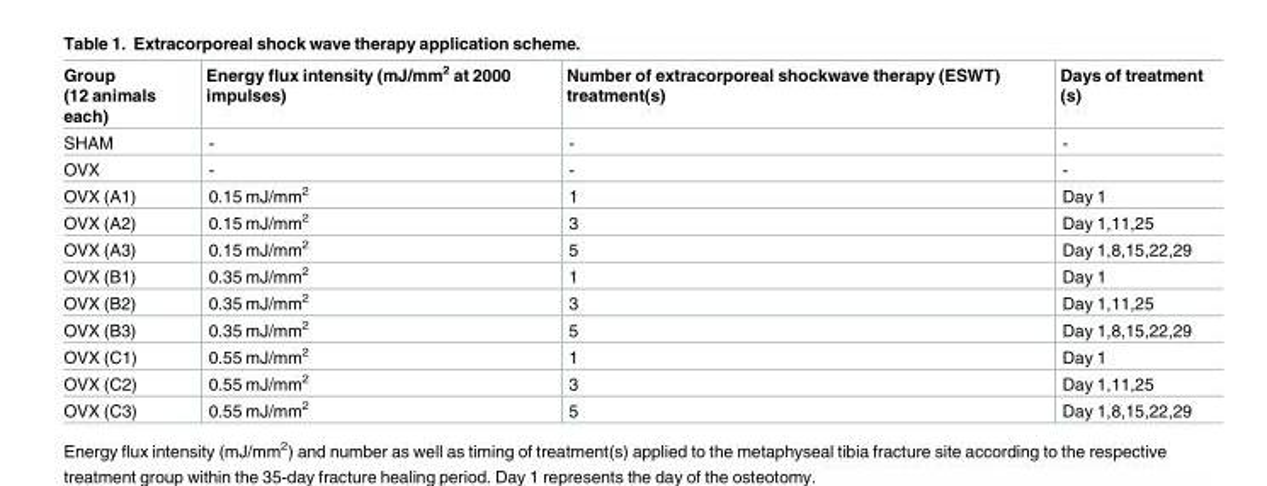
<table><thead><tr><td>Group (12 animals each)</td><td>Energy flux intensity (mJ/mm<sup>2</sup> at 2000 impulses)</td><td>Number of extracorporeal shockwave therapy (ESWT) treatment(s)</td><td>Days of treatment (s)</td></tr></thead><tbody><tr><td>SHAM</td><td>-</td><td>-</td><td>-</td></tr><tr><td>OVX</td><td>-</td><td>-</td><td>-</td></tr><tr><td>OVX (A1)</td><td>0.15 mJ/mm<sup>2</sup></td><td>1</td><td>Day 1</td></tr><tr><td>OVX (A2)</td><td>0.15 mJ/mm<sup>2</sup></td><td>3</td><td>Day 1,11,25</td></tr><tr><td>OVX (A3)</td><td>0.15 mJ/mm<sup>2</sup></td><td>5</td><td>Day 1,8,15,22,29</td></tr><tr><td>OVX (B1)</td><td>0.35 mJ/mm<sup>2</sup></td><td>1</td><td>Day 1</td></tr><tr><td>OVX (B2)</td><td>0.35 mJ/mm<sup>2</sup></td><td>3</td><td>Day 1,11,25</td></tr><tr><td>OVX (B3)</td><td>0.35 mJ/mm<sup>2</sup></td><td>5</td><td>Day 1,8,15,22,29</td></tr><tr><td>OVX (C1)</td><td>0.55 mJ/mm<sup>2</sup></td><td>1</td><td>Day 1</td></tr><tr><td>OVX (C2)</td><td>0.55 mJ/mm<sup>2</sup></td><td>3</td><td>Day 1,11,25</td></tr><tr><td>OVX (C3)</td><td>0.55 mJ/mm<sup>2</sup></td><td>5</td><td>Day 1,8,15,22,29</td></tr></tbody></table>